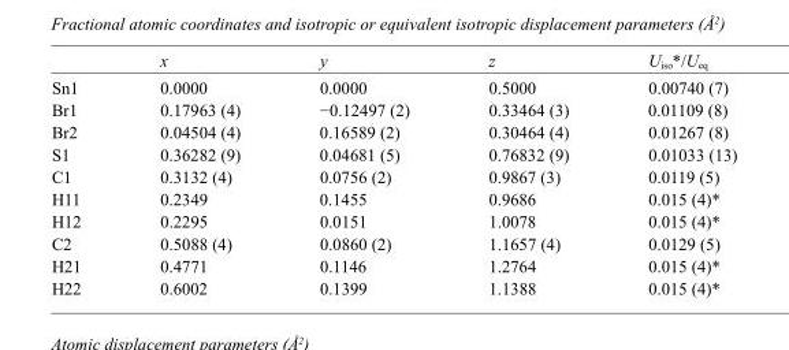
<table><thead><tr><td></td><td>x</td><td>y</td><td>z</td><td>U<sub>iso</sub>*/U<sub>eq</sub></td></tr></thead><tbody><tr><td>Sn1</td><td>0.0000</td><td>0.0000</td><td>0.5000</td><td>0.00740 (7)</td></tr><tr><td>Br1</td><td>0.17963 (4)</td><td>−0.12497 (2)</td><td>0.33464 (3)</td><td>0.01109 (8)</td></tr><tr><td>Br2</td><td>0.04504 (4)</td><td>0.16589 (2)</td><td>0.30464 (4)</td><td>0.01267 (8)</td></tr><tr><td>S1</td><td>0.36282 (9)</td><td>0.04681 (5)</td><td>0.76832 (9)</td><td>0.01033 (13)</td></tr><tr><td>C1</td><td>0.3132 (4)</td><td>0.0756 (2)</td><td>0.9867 (3)</td><td>0.0119 (5)</td></tr><tr><td>H11</td><td>0.2349</td><td>0.1455</td><td>0.9686</td><td>0.015 (4)*</td></tr><tr><td>H12</td><td>0.2295</td><td>0.0151</td><td>1.0078</td><td>0.015 (4)*</td></tr><tr><td>C2</td><td>0.5088 (4)</td><td>0.0860 (2)</td><td>1.1657 (4)</td><td>0.0129 (5)</td></tr><tr><td>H21</td><td>0.4771</td><td>0.1146</td><td>1.2764</td><td>0.015 (4)*</td></tr><tr><td>H22</td><td>0.6002</td><td>0.1399</td><td>1.1388</td><td>0.015 (4)*</td></tr></tbody></table>